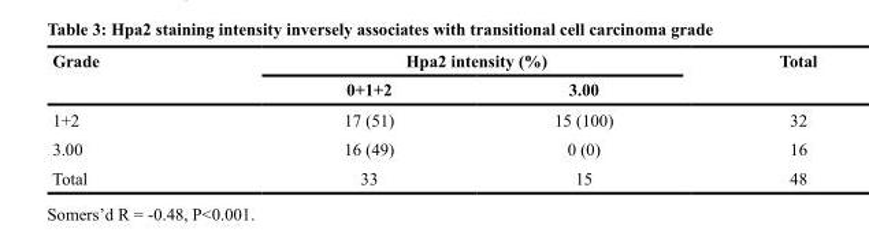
<table><thead><tr><td rowspan="2">Grade</td><td colspan="2">Hpa2 intensity (%)</td><td rowspan="2">Total</td></tr><tr><td>0+1+2</td><td>3.00</td></tr></thead><tbody><tr><td>1+2</td><td>17 (51)</td><td>15 (100)</td><td>32</td></tr><tr><td>3.00</td><td>16 (49)</td><td>0 (0)</td><td>16</td></tr><tr><td>Total</td><td>33</td><td>15</td><td>48</td></tr></tbody></table>